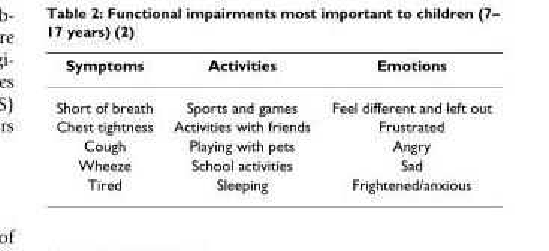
<table><thead><tr><td>Symptoms</td><td>Activities</td><td>Emotions</td></tr></thead><tbody><tr><td>Short of breath</td><td>Sports and games</td><td>Feel different and left out</td></tr><tr><td>Chest tightness</td><td>Activities with friends</td><td>Frustrated</td></tr><tr><td>Cough</td><td>Playing with pets</td><td>Angry</td></tr><tr><td>Wheeze</td><td>School activities</td><td>Sad</td></tr><tr><td>Tired</td><td>Sleeping</td><td>Frightened/anxious</td></tr></tbody></table>